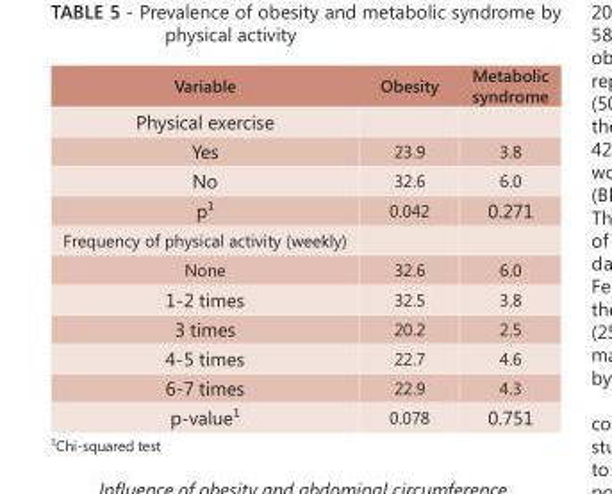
<table><thead><tr><td>Variable</td><td>Obesity</td><td>Metabolic syndrome</td></tr></thead><tbody><tr><td colspan="3">Physical exercise</td></tr><tr><td>Yes</td><td>23.9</td><td>3.8</td></tr><tr><td>No</td><td>32.6</td><td>6.0</td></tr><tr><td>p¹</td><td>0.042</td><td>0.271</td></tr><tr><td colspan="3">Frequency of physical activity (weekly)</td></tr><tr><td>None</td><td>32.6</td><td>6.0</td></tr><tr><td>1-2 times</td><td>32.5</td><td>3.8</td></tr><tr><td>3 times</td><td>20.2</td><td>2.5</td></tr><tr><td>4-5 times</td><td>22.7</td><td>4.6</td></tr><tr><td>6-7 times</td><td>22.9</td><td>4.3</td></tr><tr><td>p-value¹</td><td>0.078</td><td>0.751</td></tr></tbody></table>